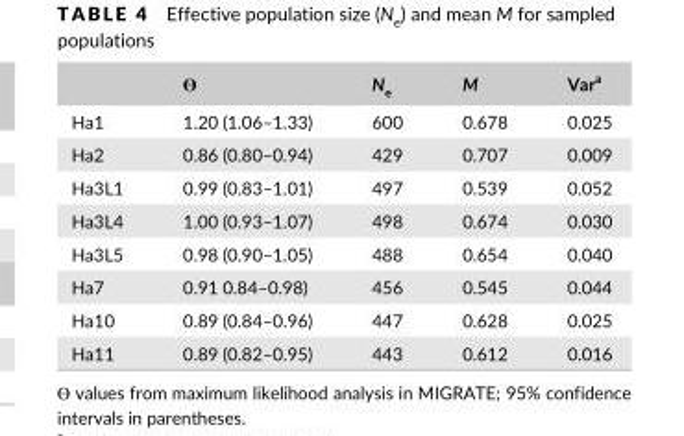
<table><thead><tr><td></td><td>ϴ</td><td>N<sub>e</sub></td><td>M</td><td>Var<sup>a</sup></td></tr></thead><tbody><tr><td>Ha1</td><td>1.20 (1.06–1.33)</td><td>600</td><td>0.678</td><td>0.025</td></tr><tr><td>Ha2</td><td>0.86 (0.80–0.94)</td><td>429</td><td>0.707</td><td>0.009</td></tr><tr><td>Ha3L1</td><td>0.99 (0.83–1.01)</td><td>497</td><td>0.539</td><td>0.052</td></tr><tr><td>Ha3L4</td><td>1.00 (0.93–1.07)</td><td>498</td><td>0.674</td><td>0.030</td></tr><tr><td>Ha3L5</td><td>0.98 (0.90–1.05)</td><td>488</td><td>0.654</td><td>0.040</td></tr><tr><td>Ha7</td><td>0.91 0.84–0.98)</td><td>456</td><td>0.545</td><td>0.044</td></tr><tr><td>Ha10</td><td>0.89 (0.84–0.96)</td><td>447</td><td>0.628</td><td>0.025</td></tr><tr><td>Ha11</td><td>0.89 (0.82–0.95)</td><td>443</td><td>0.612</td><td>0.016</td></tr></tbody></table>